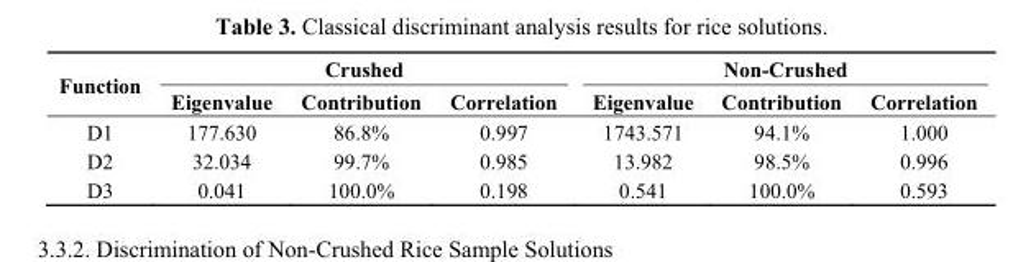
<table><thead><tr><td rowspan="2">Function</td><td colspan="3">Crushed</td><td colspan="3">Non-Crushed</td></tr><tr><td>Eigenvalue</td><td>Contribution</td><td>Correlation</td><td>Eigenvalue</td><td>Contribution</td><td>Correlation</td></tr></thead><tbody><tr><td>D1</td><td>177.630</td><td>86.8%</td><td>0.997</td><td>1743.571</td><td>94.1%</td><td>1.000</td></tr><tr><td>D2</td><td>32.034</td><td>99.7%</td><td>0.985</td><td>13.982</td><td>98.5%</td><td>0.996</td></tr><tr><td>D3</td><td>0.041</td><td>100.0%</td><td>0.198</td><td>0.541</td><td>100.0%</td><td>0.593</td></tr></tbody></table>